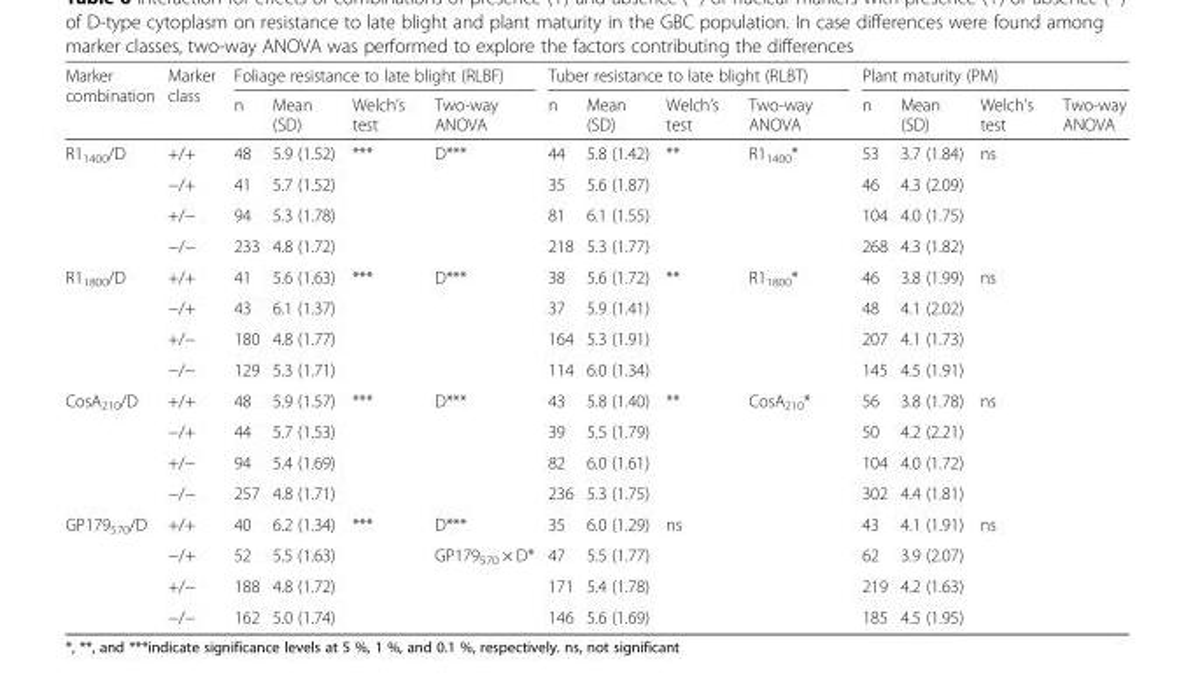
<table><thead><tr><td rowspan="2">Marker combination</td><td rowspan="2">Marker class</td><td colspan="4">Foliage resistance to late blight (RLBF)</td><td colspan="4">Tuber resistance to late blight (RLBT)</td><td colspan="4">Plant maturity (PM)</td></tr><tr><td>n</td><td>Mean (SD)</td><td>Welch’s test</td><td>Two-way ANOVA</td><td>n</td><td>Mean (SD)</td><td>Welch’s test</td><td>Two-way ANOVA</td><td>n</td><td>Mean (SD)</td><td>Welch’s test</td><td>Two-way ANOVA</td></tr></thead><tbody><tr><td rowspan="4">R1<sub>1400</sub>/D</td><td>+/+</td><td>48</td><td>5.9 (1.52)</td><td>***</td><td>D***</td><td>44</td><td>5.8 (1.42)</td><td>**</td><td>R1<sub>1400</sub>*</td><td>53</td><td>3.7 (1.84)</td><td>ns</td><td></td></tr><tr><td>−/+</td><td>41</td><td>5.7 (1.52)</td><td></td><td></td><td>35</td><td>5.6 (1.87)</td><td></td><td></td><td>46</td><td>4.3 (2.09)</td><td></td><td></td></tr><tr><td>+/−</td><td>94</td><td>5.3 (1.78)</td><td></td><td></td><td>81</td><td>6.1 (1.55)</td><td></td><td></td><td>104</td><td>4.0 (1.75)</td><td></td><td></td></tr><tr><td>−/−</td><td>233</td><td>4.8 (1.72)</td><td></td><td></td><td>218</td><td>5.3 (1.77)</td><td></td><td></td><td>268</td><td>4.3 (1.82)</td><td></td><td></td></tr><tr><td rowspan="4">R1<sub>1800</sub>/D</td><td>+/+</td><td>41</td><td>5.6 (1.63)</td><td>***</td><td>D***</td><td>38</td><td>5.6 (1.72)</td><td>**</td><td>R1<sub>1800</sub>*</td><td>46</td><td>3.8 (1.99)</td><td>ns</td><td></td></tr><tr><td>−/+</td><td>43</td><td>6.1 (1.37)</td><td></td><td></td><td>37</td><td>5.9 (1.41)</td><td></td><td></td><td>48</td><td>4.1 (2.02)</td><td></td><td></td></tr><tr><td>+/−</td><td>180</td><td>4.8 (1.77)</td><td></td><td></td><td>164</td><td>5.3 (1.91)</td><td></td><td></td><td>207</td><td>4.1 (1.73)</td><td></td><td></td></tr><tr><td>−/−</td><td>129</td><td>5.3 (1.71)</td><td></td><td></td><td>114</td><td>6.0 (1.34)</td><td></td><td></td><td>145</td><td>4.5 (1.91)</td><td></td><td></td></tr><tr><td rowspan="4">CosA<sub>210</sub>/D</td><td>+/+</td><td>48</td><td>5.9 (1.57)</td><td>***</td><td>D***</td><td>43</td><td>5.8 (1.40)</td><td>**</td><td>CosA<sub>210</sub>*</td><td>56</td><td>3.8 (1.78)</td><td>ns</td><td></td></tr><tr><td>−/+</td><td>44</td><td>5.7 (1.53)</td><td></td><td></td><td>39</td><td>5.5 (1.79)</td><td></td><td></td><td>50</td><td>4.2 (2.21)</td><td></td><td></td></tr><tr><td>+/−</td><td>94</td><td>5.4 (1.69)</td><td></td><td></td><td>82</td><td>6.0 (1.61)</td><td></td><td></td><td>104</td><td>4.0 (1.72)</td><td></td><td></td></tr><tr><td>−/−</td><td>257</td><td>4.8 (1.71)</td><td></td><td></td><td>236</td><td>5.3 (1.75)</td><td></td><td></td><td>302</td><td>4.4 (1.81)</td><td></td><td></td></tr><tr><td rowspan="4">GP179<sub>570</sub>/D</td><td>+/+</td><td>40</td><td>6.2 (1.34)</td><td>***</td><td>D***</td><td>35</td><td>6.0 (1.29)</td><td>ns</td><td></td><td>43</td><td>4.1 (1.91)</td><td>ns</td><td></td></tr><tr><td>−/+</td><td>52</td><td>5.5 (1.63)</td><td></td><td>GP179<sub>570</sub> × D*</td><td>47</td><td>5.5 (1.77)</td><td></td><td></td><td>62</td><td>3.9 (2.07)</td><td></td><td></td></tr><tr><td>+/−</td><td>188</td><td>4.8 (1.72)</td><td></td><td></td><td>171</td><td>5.4 (1.78)</td><td></td><td></td><td>219</td><td>4.2 (1.63)</td><td></td><td></td></tr><tr><td>−/−</td><td>162</td><td>5.0 (1.74)</td><td></td><td></td><td>146</td><td>5.6 (1.69)</td><td></td><td></td><td>185</td><td>4.5 (1.95)</td><td></td><td></td></tr></tbody></table>